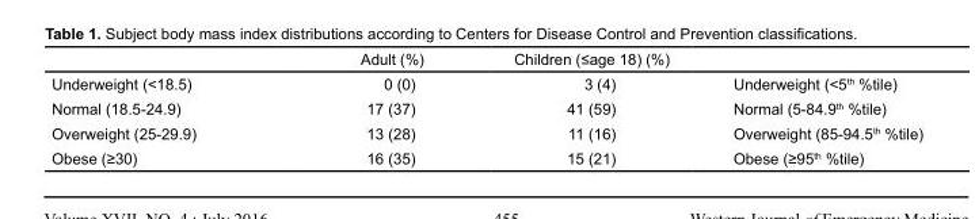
<table><thead><tr><td></td><td>Adult (%)</td><td>Children (≤age 18) (%)</td><td></td></tr></thead><tbody><tr><td>Underweight (&lt;18.5)</td><td>0 (0)</td><td>3 (4)</td><td>Underweight (&lt;5<sup>th</sup> %tile)</td></tr><tr><td>Normal (18.5-24.9)</td><td>17 (37)</td><td>41 (59)</td><td>Normal (5-84.9<sup>th</sup> %tile)</td></tr><tr><td>Overweight (25-29.9)</td><td>13 (28)</td><td>11 (16)</td><td>Overweight (85-94.5<sup>th</sup> %tile)</td></tr><tr><td>Obese (≥30)</td><td>16 (35)</td><td>15 (21)</td><td>Obese (≥95<sup>th</sup> %tile)</td></tr></tbody></table>